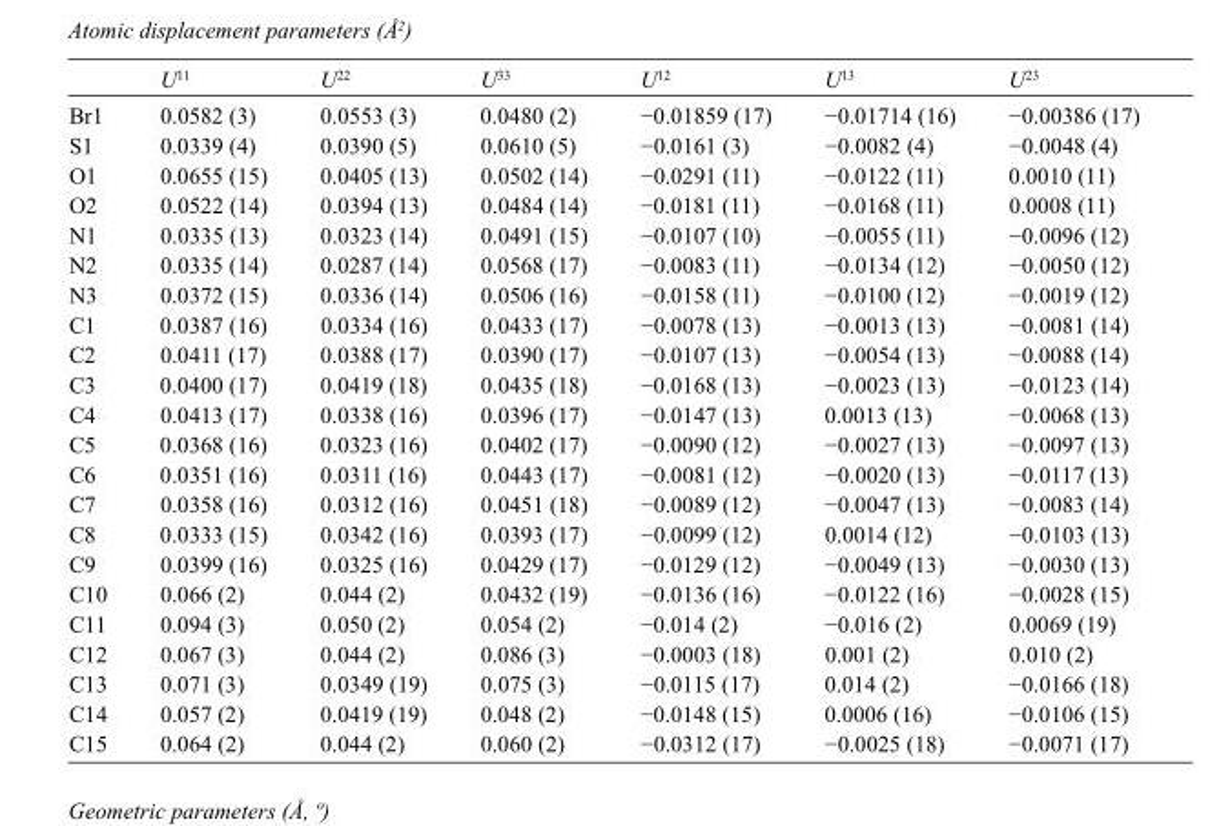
<table><thead><tr><td></td><td>U<sup>11</sup></td><td>U<sup>22</sup></td><td>U<sup>33</sup></td><td>U<sup>12</sup></td><td>U<sup>13</sup></td><td>U<sup>23</sup></td></tr></thead><tbody><tr><td>Br1</td><td>0.0582 (3)</td><td>0.0553 (3)</td><td>0.0480 (2)</td><td>−0.01859 (17)</td><td>−0.01714 (16)</td><td>−0.00386 (17)</td></tr><tr><td>S1</td><td>0.0339 (4)</td><td>0.0390 (5)</td><td>0.0610 (5)</td><td>−0.0161 (3)</td><td>−0.0082 (4)</td><td>−0.0048 (4)</td></tr><tr><td>O1</td><td>0.0655 (15)</td><td>0.0405 (13)</td><td>0.0502 (14)</td><td>−0.0291 (11)</td><td>−0.0122 (11)</td><td>0.0010 (11)</td></tr><tr><td>O2</td><td>0.0522 (14)</td><td>0.0394 (13)</td><td>0.0484 (14)</td><td>−0.0181 (11)</td><td>−0.0168 (11)</td><td>0.0008 (11)</td></tr><tr><td>N1</td><td>0.0335 (13)</td><td>0.0323 (14)</td><td>0.0491 (15)</td><td>−0.0107 (10)</td><td>−0.0055 (11)</td><td>−0.0096 (12)</td></tr><tr><td>N2</td><td>0.0335 (14)</td><td>0.0287 (14)</td><td>0.0568 (17)</td><td>−0.0083 (11)</td><td>−0.0134 (12)</td><td>−0.0050 (12)</td></tr><tr><td>N3</td><td>0.0372 (15)</td><td>0.0336 (14)</td><td>0.0506 (16)</td><td>−0.0158 (11)</td><td>−0.0100 (12)</td><td>−0.0019 (12)</td></tr><tr><td>C1</td><td>0.0387 (16)</td><td>0.0334 (16)</td><td>0.0433 (17)</td><td>−0.0078 (13)</td><td>−0.0013 (13)</td><td>−0.0081 (14)</td></tr><tr><td>C2</td><td>0.0411 (17)</td><td>0.0388 (17)</td><td>0.0390 (17)</td><td>−0.0107 (13)</td><td>−0.0054 (13)</td><td>−0.0088 (14)</td></tr><tr><td>C3</td><td>0.0400 (17)</td><td>0.0419 (18)</td><td>0.0435 (18)</td><td>−0.0168 (13)</td><td>−0.0023 (13)</td><td>−0.0123 (14)</td></tr><tr><td>C4</td><td>0.0413 (17)</td><td>0.0338 (16)</td><td>0.0396 (17)</td><td>−0.0147 (13)</td><td>0.0013 (13)</td><td>−0.0068 (13)</td></tr><tr><td>C5</td><td>0.0368 (16)</td><td>0.0323 (16)</td><td>0.0402 (17)</td><td>−0.0090 (12)</td><td>−0.0027 (13)</td><td>−0.0097 (13)</td></tr><tr><td>C6</td><td>0.0351 (16)</td><td>0.0311 (16)</td><td>0.0443 (17)</td><td>−0.0081 (12)</td><td>−0.0020 (13)</td><td>−0.0117 (13)</td></tr><tr><td>C7</td><td>0.0358 (16)</td><td>0.0312 (16)</td><td>0.0451 (18)</td><td>−0.0089 (12)</td><td>−0.0047 (13)</td><td>−0.0083 (14)</td></tr><tr><td>C8</td><td>0.0333 (15)</td><td>0.0342 (16)</td><td>0.0393 (17)</td><td>−0.0099 (12)</td><td>0.0014 (12)</td><td>−0.0103 (13)</td></tr><tr><td>C9</td><td>0.0399 (16)</td><td>0.0325 (16)</td><td>0.0429 (17)</td><td>−0.0129 (12)</td><td>−0.0049 (13)</td><td>−0.0030 (13)</td></tr><tr><td>C10</td><td>0.066 (2)</td><td>0.044 (2)</td><td>0.0432 (19)</td><td>−0.0136 (16)</td><td>−0.0122 (16)</td><td>−0.0028 (15)</td></tr><tr><td>C11</td><td>0.094 (3)</td><td>0.050 (2)</td><td>0.054 (2)</td><td>−0.014 (2)</td><td>−0.016 (2)</td><td>0.0069 (19)</td></tr><tr><td>C12</td><td>0.067 (3)</td><td>0.044 (2)</td><td>0.086 (3)</td><td>−0.0003 (18)</td><td>0.001 (2)</td><td>0.010 (2)</td></tr><tr><td>C13</td><td>0.071 (3)</td><td>0.0349 (19)</td><td>0.075 (3)</td><td>−0.0115 (17)</td><td>0.014 (2)</td><td>−0.0166 (18)</td></tr><tr><td>C14</td><td>0.057 (2)</td><td>0.0419 (19)</td><td>0.048 (2)</td><td>−0.0148 (15)</td><td>0.0006 (16)</td><td>−0.0106 (15)</td></tr><tr><td>C15</td><td>0.064 (2)</td><td>0.044 (2)</td><td>0.060 (2)</td><td>−0.0312 (17)</td><td>−0.0025 (18)</td><td>−0.0071 (17)</td></tr></tbody></table>